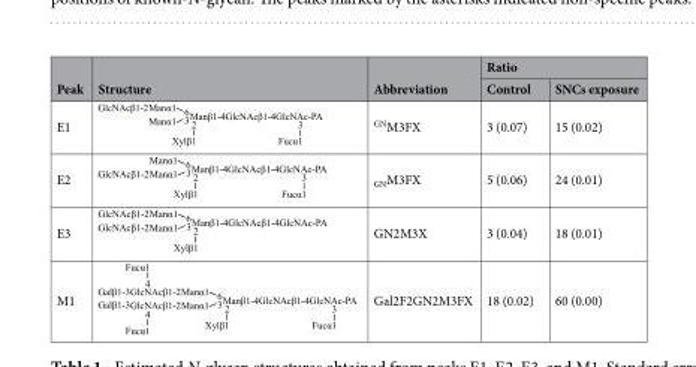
<table><thead><tr><td rowspan="2">Peak</td><td rowspan="2">Structure</td><td rowspan="2">Abbreviation</td><td colspan="2">Ratio</td></tr><tr><td>Control</td><td>SNCs exposure</td></tr></thead><tbody><tr><td>E1</td><td></td><td><sup>GN</sup>M3FX</td><td>3 (0.07)</td><td>15 (0.02)</td></tr><tr><td>E2</td><td></td><td><sub>GN</sub>M3FX</td><td>5 (0.06)</td><td>24 (0.01)</td></tr><tr><td>E3</td><td></td><td>GN2M3X</td><td>3 (0.04)</td><td>18 (0.01)</td></tr><tr><td>M1</td><td></td><td>Gal2F2GN2M3FX</td><td>18 (0.02)</td><td>60 (0.00)</td></tr></tbody></table>